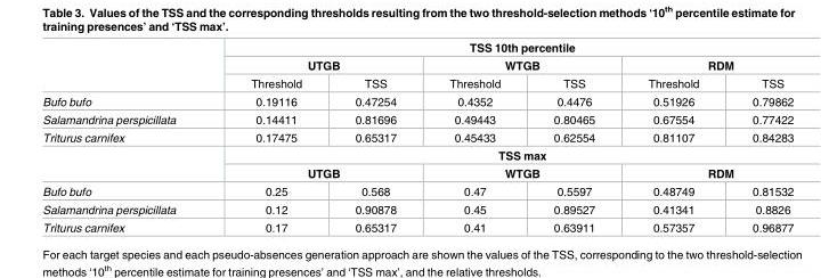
<table><thead><tr><td rowspan="3"></td><td colspan="6">TSS 10th percentile</td></tr><tr><td colspan="2">UTGB</td><td colspan="2">WTGB</td><td colspan="2">RDM</td></tr><tr><td>Threshold</td><td>TSS</td><td>Threshold</td><td>TSS</td><td>Threshold</td><td>TSS</td></tr></thead><tbody><tr><td>Bufo bufo</td><td>0.19116</td><td>0.47254</td><td>0.4352</td><td>0.4476</td><td>0.51926</td><td>0.79862</td></tr><tr><td>Salamandrina perspicillata</td><td>0.14411</td><td>0.81696</td><td>0.49443</td><td>0.80465</td><td>0.67554</td><td>0.77422</td></tr><tr><td rowspan="3">Triturus carnifex</td><td>0.17475</td><td>0.65317</td><td>0.45433</td><td>0.62554</td><td>0.81107</td><td>0.84283</td></tr><tr><td colspan="6">TSS max</td></tr><tr><td colspan="2">UTGB</td><td colspan="2">WTGB</td><td colspan="2">RDM</td></tr><tr><td>Bufo bufo</td><td>0.25</td><td>0.568</td><td>0.47</td><td>0.5597</td><td>0.48749</td><td>0.81532</td></tr><tr><td>Salamandrina perspicillata</td><td>0.12</td><td>0.90878</td><td>0.45</td><td>0.89527</td><td>0.41341</td><td>0.8826</td></tr><tr><td>Triturus carnifex</td><td>0.17</td><td>0.65317</td><td>0.41</td><td>0.63911</td><td>0.57357</td><td>0.96877</td></tr></tbody></table>